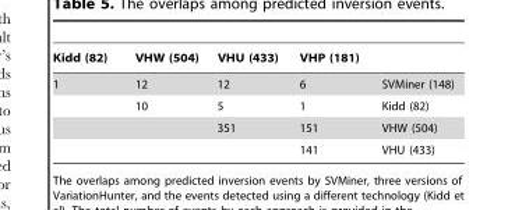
<table><thead><tr><td>Kidd (82)</td><td>VHW (504)</td><td>VHU (433)</td><td>VHP (181)</td><td></td></tr></thead><tbody><tr><td rowspan="4">1</td><td>12</td><td>12</td><td>6</td><td>SVMiner (148)</td></tr><tr><td>10</td><td>5</td><td>1</td><td>Kidd (82)</td></tr><tr><td></td><td>351</td><td>151</td><td>VHW (504)</td></tr><tr><td></td><td></td><td>141</td><td>VHU (433)</td></tr></tbody></table>